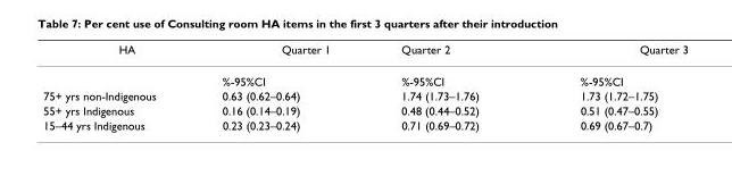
<table><thead><tr><td>HA</td><td>Quarter 1</td><td>Quarter 2</td><td>Quarter 3</td></tr></thead><tbody><tr><td></td><td>%-95%CI</td><td>%-95%CI</td><td>%-95%CI</td></tr><tr><td>75+ yrs non-Indigenous</td><td>0.63 (0.62–0.64)</td><td>1.74 (1.73–1.76)</td><td>1.73 (1.72–1.75)</td></tr><tr><td>55+ yrs Indigenous</td><td>0.16 (0.14–0.19)</td><td>0.48 (0.44–0.52)</td><td>0.51 (0.47–0.55)</td></tr><tr><td>15–44 yrs Indigenous</td><td>0.23 (0.23–0.24)</td><td>0.71 (0.69–0.72)</td><td>0.69 (0.67–0.7)</td></tr></tbody></table>